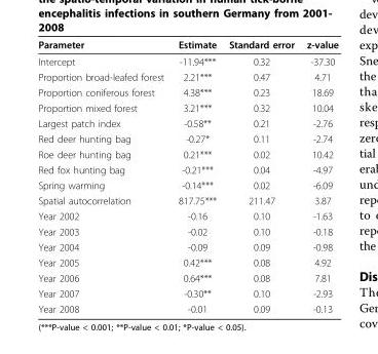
<table><thead><tr><td>Parameter</td><td>Estimate</td><td>Standard error</td><td>z-value</td></tr></thead><tbody><tr><td>Intercept</td><td>-11.94***</td><td>0.32</td><td>-37.30</td></tr><tr><td>Proportion broad-leafed forest</td><td>2.21***</td><td>0.47</td><td>4.71</td></tr><tr><td>Proportion coniferous forest</td><td>4.38***</td><td>0.23</td><td>18.69</td></tr><tr><td>Proportion mixed forest</td><td>3.21***</td><td>0.32</td><td>10.04</td></tr><tr><td>Largest patch index</td><td>-0.58**</td><td>0.21</td><td>-2.76</td></tr><tr><td>Red deer hunting bag</td><td>-0.27*</td><td>0.11</td><td>-2.74</td></tr><tr><td>Roe deer hunting bag</td><td>0.21***</td><td>0.02</td><td>10.42</td></tr><tr><td>Red fox hunting bag</td><td>-0.21***</td><td>0.04</td><td>-4.97</td></tr><tr><td>Spring warming</td><td>-0.14***</td><td>0.02</td><td>-6.09</td></tr><tr><td>Spatial autocorrelation</td><td>817.75***</td><td>211.47</td><td>3.87</td></tr><tr><td>Year 2002</td><td>-0.16</td><td>0.10</td><td>-1.63</td></tr><tr><td>Year 2003</td><td>-0.02</td><td>0.10</td><td>-0.18</td></tr><tr><td>Year 2004</td><td>-0.09</td><td>0.09</td><td>-0.98</td></tr><tr><td>Year 2005</td><td>0.42***</td><td>0.08</td><td>4.92</td></tr><tr><td>Year 2006</td><td>0.64***</td><td>0.08</td><td>7.81</td></tr><tr><td>Year 2007</td><td>-0.30**</td><td>0.10</td><td>-2.93</td></tr><tr><td>Year 2008</td><td>-0.01</td><td>0.09</td><td>-0.13</td></tr></tbody></table>